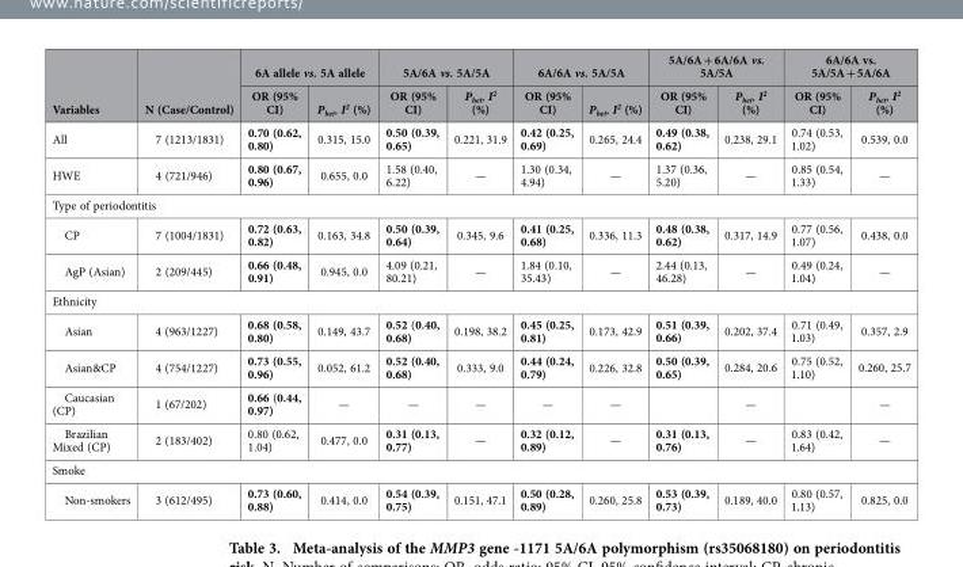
<table><thead><tr><td rowspan="2">Variables</td><td rowspan="2">N (Case/Control)</td><td colspan="2">6A allele vs. 5A allele</td><td colspan="2">5A/6A vs. 5A/5A</td><td colspan="2">6A/6A vs. 5A/5A</td><td colspan="2">5A/6A + 6A/6A vs. 5A/5A</td><td colspan="2">6A/6A vs. 5A/5A + 5A/6A</td></tr><tr><td>OR (95% CI)</td><td>P<sub>het</sub>, I<sup>2</sup> (%)</td><td>OR (95% CI)</td><td>P<sub>het</sub>, I<sup>2</sup> (%)</td><td>OR (95% CI)</td><td>P<sub>het</sub>, I<sup>2</sup> (%)</td><td>OR (95% CI)</td><td>P<sub>het</sub>, I<sup>2</sup> (%)</td><td>OR (95% CI)</td><td>P<sub>het</sub>, I<sup>2</sup> (%)</td></tr></thead><tbody><tr><td>All</td><td>7 (1213/1831)</td><td>0.70 (0.62, 0.80)</td><td>0.315, 15.0</td><td>0.50 (0.39, 0.65)</td><td>0.221, 31.9</td><td>0.42 (0.25, 0.69)</td><td>0.265, 24.4</td><td>0.49 (0.38, 0.62)</td><td>0.238, 29.1</td><td>0.74 (0.53, 1.02)</td><td>0.539, 0.0</td></tr><tr><td>HWE</td><td>4 (721/946)</td><td>0.80 (0.67, 0.96)</td><td>0.655, 0.0</td><td>1.58 (0.40, 6.22)</td><td>—</td><td>1.30 (0.34, 4.94)</td><td>—</td><td>1.37 (0.36, 5.20)</td><td>—</td><td>0.85 (0.54, 1.33)</td><td>—</td></tr><tr><td colspan="12">Type of periodontitis</td></tr><tr><td>CP</td><td>7 (1004/1831)</td><td>0.72 (0.63, 0.82)</td><td>0.163, 34.8</td><td>0.50 (0.39, 0.64)</td><td>0.345, 9.6</td><td>0.41 (0.25, 0.68)</td><td>0.336, 11.3</td><td>0.48 (0.38, 0.62)</td><td>0.317, 14.9</td><td>0.77 (0.56, 1.07)</td><td>0.438, 0.0</td></tr><tr><td>AgP (Asian)</td><td>2 (209/445)</td><td>0.66 (0.48, 0.91)</td><td>0.945, 0.0</td><td>4.09 (0.21, 80.21)</td><td>—</td><td>1.84 (0.10, 35.43)</td><td>—</td><td>2.44 (0.13, 46.28)</td><td>—</td><td>0.49 (0.24, 1.04)</td><td>—</td></tr><tr><td colspan="12">Ethnicity</td></tr><tr><td>Asian</td><td>4 (963/1227)</td><td>0.68 (0.58, 0.80)</td><td>0.149, 43.7</td><td>0.52 (0.40, 0.68)</td><td>0.198, 38.2</td><td>0.45 (0.25, 0.81)</td><td>0.173, 42.9</td><td>0.51 (0.39, 0.66)</td><td>0.202, 37.4</td><td>0.71 (0.49, 1.03)</td><td>0.357, 2.9</td></tr><tr><td>Asian&amp;CP</td><td>4 (754/1227)</td><td>0.73 (0.55, 0.96)</td><td>0.052, 61.2</td><td>0.52 (0.40, 0.68)</td><td>0.333, 9.0</td><td>0.44 (0.24, 0.79)</td><td>0.226, 32.8</td><td>0.50 (0.39, 0.65)</td><td>0.284, 20.6</td><td>0.75 (0.52, 1.10)</td><td>0.260, 25.7</td></tr><tr><td>Caucasian (CP)</td><td>1 (67/202)</td><td>0.66 (0.44, 0.97)</td><td>—</td><td>—</td><td>—</td><td>—</td><td>—</td><td></td><td>—</td><td></td><td>—</td></tr><tr><td>Brazilian Mixed (CP)</td><td>2 (183/402)</td><td>0.80 (0.62, 1.04)</td><td>0.477, 0.0</td><td>0.31 (0.13, 0.77)</td><td>—</td><td>0.32 (0.12, 0.89)</td><td>—</td><td>0.31 (0.13, 0.76)</td><td>—</td><td>0.83 (0.42, 1.64)</td><td>—</td></tr><tr><td colspan="12">Smoke</td></tr><tr><td>Non-smokers</td><td>3 (612/495)</td><td>0.73 (0.60, 0.88)</td><td>0.414, 0.0</td><td>0.54 (0.39, 0.75)</td><td>0.151, 47.1</td><td>0.50 (0.28, 0.89)</td><td>0.260, 25.8</td><td>0.53 (0.39, 0.73)</td><td>0.189, 40.0</td><td>0.80 (0.57, 1.13)</td><td>0.825, 0.0</td></tr></tbody></table>